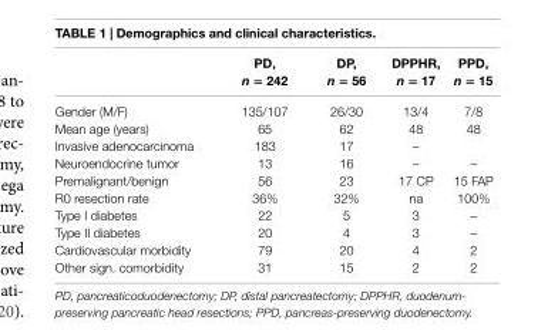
<table><thead><tr><td></td><td>PD, n = 242</td><td>DP, n = 56</td><td>DPPhr, n = 17</td><td>PPD, n = 15</td></tr></thead><tbody><tr><td>Gender (M/F)</td><td>135/107</td><td>26/30</td><td>13/4</td><td>7/8</td></tr><tr><td>Mean age (years)</td><td>65</td><td>62</td><td>48</td><td>48</td></tr><tr><td>Invasive adenocarcinoma</td><td>183</td><td>17</td><td>–</td><td></td></tr><tr><td>Neuroendocrine tumor</td><td>13</td><td>16</td><td>–</td><td>–</td></tr><tr><td>Premalignant/benign</td><td>56</td><td>23</td><td>17 CP</td><td>15 FAP</td></tr><tr><td>R0 resection rate</td><td>36%</td><td>32%</td><td>na</td><td>100%</td></tr><tr><td>Type I diabetes</td><td>22</td><td>5</td><td>3</td><td>–</td></tr><tr><td>Type II diabetes</td><td>20</td><td>4</td><td>3</td><td>–</td></tr><tr><td>Cardiovascular morbidity</td><td>79</td><td>20</td><td>4</td><td>2</td></tr><tr><td>Other sign. comorbidity</td><td>31</td><td>15</td><td>2</td><td>2</td></tr></tbody></table>